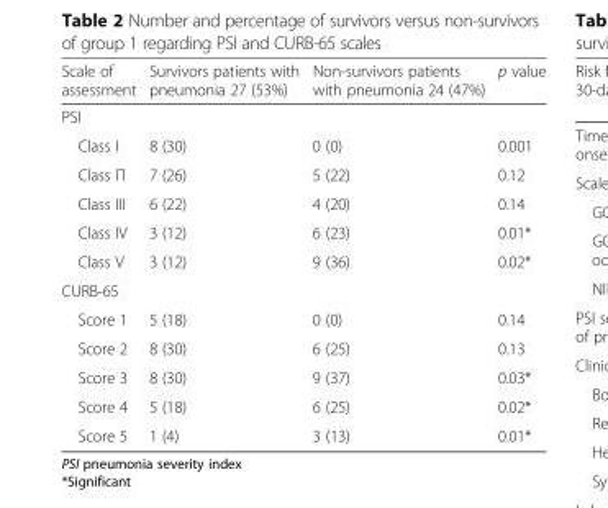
<table><thead><tr><td>Scale of assessment</td><td>Survivors patients with pneumonia 27 (53%)</td><td>Non-survivors patients with pneumonia 24 (47%)</td><td>p value</td></tr></thead><tbody><tr><td colspan="4">PSI</td></tr><tr><td>Class І</td><td>8 (30)</td><td>0 (0)</td><td>0.001</td></tr><tr><td>Class Π</td><td>7 (26)</td><td>5 (22)</td><td>0.12</td></tr><tr><td>Class III</td><td>6 (22)</td><td>4 (20)</td><td>0.14</td></tr><tr><td>Class IV</td><td>3 (12)</td><td>6 (23)</td><td>0.01*</td></tr><tr><td>Class V</td><td>3 (12)</td><td>9 (36)</td><td>0.02*</td></tr><tr><td colspan="4">CURB-65</td></tr><tr><td>Score 1</td><td>5 (18)</td><td>0 (0)</td><td>0.14</td></tr><tr><td>Score 2</td><td>8 (30)</td><td>6 (25)</td><td>0.13</td></tr><tr><td>Score 3</td><td>8 (30)</td><td>9 (37)</td><td>0.03*</td></tr><tr><td>Score 4</td><td>5 (18)</td><td>6 (25)</td><td>0.02*</td></tr><tr><td>Score 5</td><td>1 (4)</td><td>3 (13)</td><td>0.01*</td></tr></tbody></table>